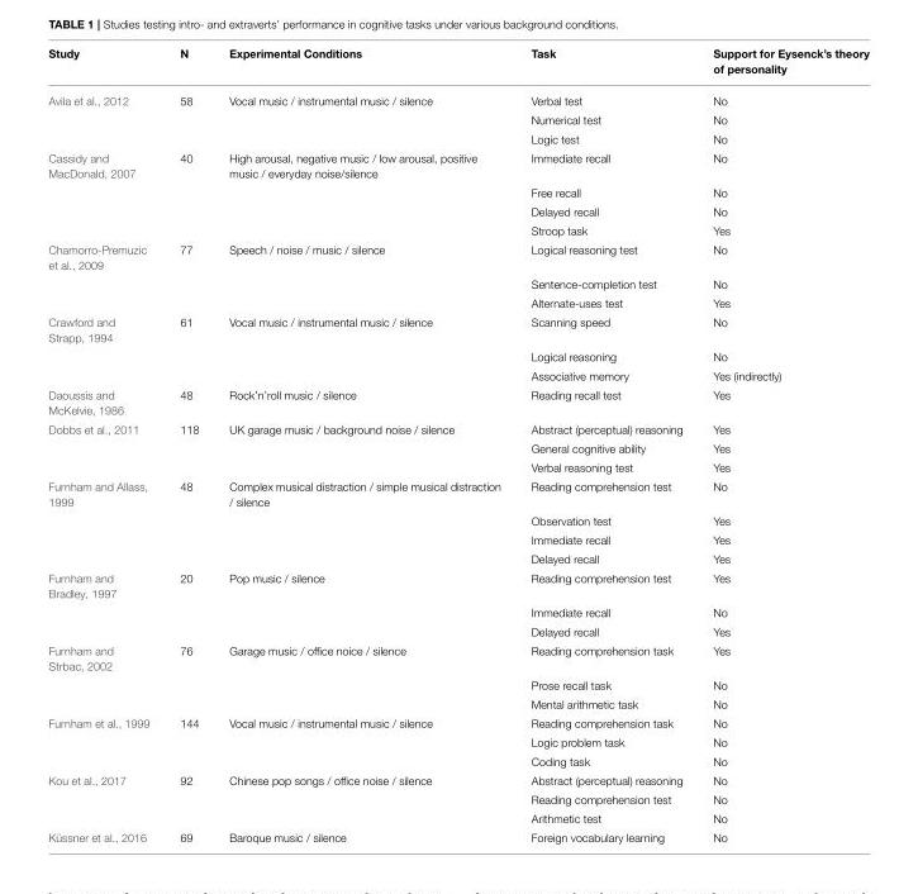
<table><thead><tr><td>Study</td><td>N</td><td>Experimental Conditions</td><td>Task</td><td>Support for Eysenck’s theory of personality</td></tr></thead><tbody><tr><td rowspan="3">Avila et al., 2012</td><td>58</td><td>Vocal music / instrumental music / silence</td><td>Verbal test</td><td>No</td></tr><tr><td></td><td></td><td>Numerical test</td><td>No</td></tr><tr><td></td><td></td><td>Logic test</td><td>No</td></tr><tr><td rowspan="4">Cassidy and MacDonald, 2007</td><td>40</td><td>High arousal, negative music / low arousal, positive music / everyday noise/silence</td><td>Immediate recall</td><td>No</td></tr><tr><td></td><td></td><td>Free recall</td><td>No</td></tr><tr><td></td><td></td><td>Delayed recall</td><td>No</td></tr><tr><td></td><td></td><td>Stroop task</td><td>Yes</td></tr><tr><td rowspan="3">Chamorro-Premuzic et al., 2009</td><td>77</td><td>Speech / noise / music / silence</td><td>Logical reasoning test</td><td>No</td></tr><tr><td></td><td></td><td>Sentence-completion test</td><td>No</td></tr><tr><td></td><td></td><td>Alternate-uses test</td><td>Yes</td></tr><tr><td rowspan="3">Crawford and Strapp, 1994</td><td>61</td><td>Vocal music / instrumental music / silence</td><td>Scanning speed</td><td>No</td></tr><tr><td></td><td></td><td>Logical reasoning</td><td>No</td></tr><tr><td></td><td></td><td>Associative memory</td><td>Yes (indirectly)</td></tr><tr><td>Daoussis and McKelvie, 1986</td><td>48</td><td>Rock’n’roll music / silence</td><td>Reading recall test</td><td>Yes</td></tr><tr><td rowspan="3">Dobbs et al., 2011</td><td>118</td><td>UK garage music / background noise / silence</td><td>Abstract (perceptual) reasoning</td><td>Yes</td></tr><tr><td></td><td></td><td>General cognitive ability</td><td>Yes</td></tr><tr><td></td><td></td><td>Verbal reasoning test</td><td>Yes</td></tr><tr><td rowspan="4">Furnham and Allass, 1999</td><td>48</td><td>Complex musical distraction / simple musical distraction / silence</td><td>Reading comprehension test</td><td>No</td></tr><tr><td></td><td></td><td>Observation test</td><td>Yes</td></tr><tr><td></td><td></td><td>Immediate recall</td><td>Yes</td></tr><tr><td></td><td></td><td>Delayed recall</td><td>Yes</td></tr><tr><td rowspan="3">Furnham and Bradley, 1997</td><td>20</td><td>Pop music / silence</td><td>Reading comprehension test</td><td>Yes</td></tr><tr><td></td><td></td><td>Immediate recall</td><td>No</td></tr><tr><td></td><td></td><td>Delayed recall</td><td>Yes</td></tr><tr><td rowspan="3">Furnham and Strbac, 2002</td><td>76</td><td>Garage music / office noice / silence</td><td>Reading comprehension task</td><td>Yes</td></tr><tr><td></td><td></td><td>Prose recall task</td><td>No</td></tr><tr><td></td><td></td><td>Mental arithmetic task</td><td>No</td></tr><tr><td rowspan="3">Furnham et al., 1999</td><td>144</td><td>Vocal music / instrumental music / silence</td><td>Reading comprehension task</td><td>No</td></tr><tr><td></td><td></td><td>Logic problem task</td><td>No</td></tr><tr><td></td><td></td><td>Coding task</td><td>No</td></tr><tr><td rowspan="3">Kou et al., 2017</td><td>92</td><td>Chinese pop songs / office noise / silence</td><td>Abstract (perceptual) reasoning</td><td>No</td></tr><tr><td></td><td></td><td>Reading comprehension test</td><td>No</td></tr><tr><td></td><td></td><td>Arithmetic test</td><td>No</td></tr><tr><td>Küssner et al., 2016</td><td>69</td><td>Baroque music / silence</td><td>Foreign vocabulary learning</td><td>No</td></tr></tbody></table>